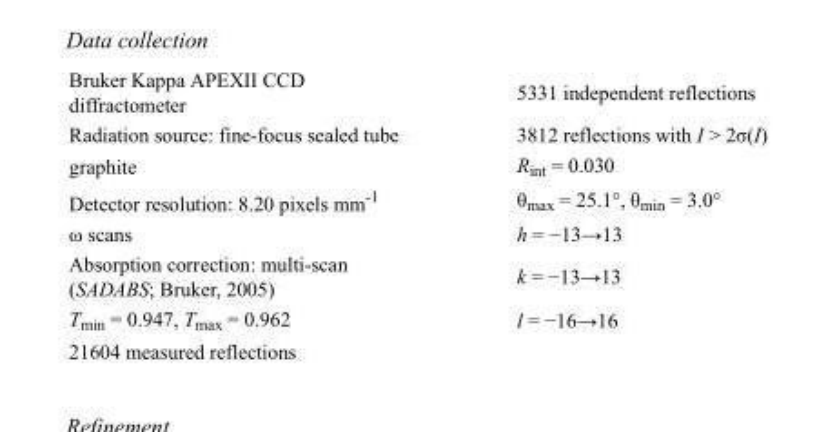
<table><tbody><tr><td>Bruker Kappa APEXII CCD diffractometer</td><td>5331 independent reflections</td></tr><tr><td>Radiation source: fine-focus sealed tube</td><td>3812 reflections with I &gt; 2σ(I)</td></tr><tr><td>graphite</td><td>R<sub>int</sub> = 0.030</td></tr><tr><td>Detector resolution: 8.20 pixels mm<sup>-1</sup></td><td>θ<sub>max</sub> = 25.1°, θ<sub>min</sub> = 3.0°</td></tr><tr><td>ω scans</td><td>h = −13→13</td></tr><tr><td>Absorption correction: multi-scan (SADABS; Bruker, 2005)</td><td>k = −13→13</td></tr><tr><td>T<sub>min</sub> = 0.947, T<sub>max</sub> = 0.962</td><td>l = −16→16</td></tr><tr><td>21604 measured reflections</td><td></td></tr></tbody></table>